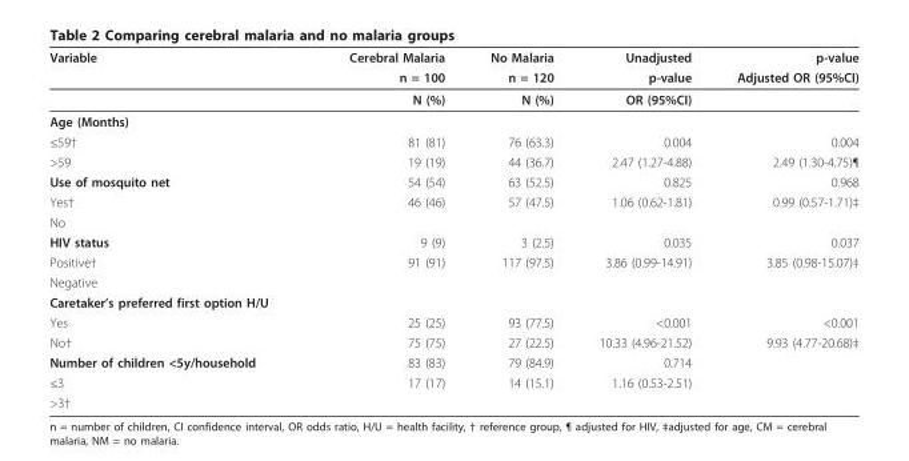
<table><thead><tr><td rowspan="2">Variable</td><td rowspan="2">Cerebral Malaria n = 100</td><td rowspan="2">No Malaria n = 120</td><td rowspan="2">Unadjusted p-value</td><td rowspan="2">p-value Adjusted OR (95%CI)</td></tr><tr></tr></thead><tbody><tr><td></td><td>N (%)</td><td>N (%)</td><td>OR (95%CI)</td><td></td></tr><tr><td colspan="5">Age (Months)</td></tr><tr><td>≤59†</td><td>81 (81)</td><td>76 (63.3)</td><td>0.004</td><td>0.004</td></tr><tr><td>&gt;59</td><td>19 (19)</td><td>44 (36.7)</td><td>2.47 (1.27-4.88)</td><td>2.49 (1.30-4.75)¶</td></tr><tr><td>Use of mosquito net</td><td>54 (54)</td><td>63 (52.5)</td><td>0.825</td><td>0.968</td></tr><tr><td>Yes†</td><td>46 (46)</td><td>57 (47.5)</td><td>1.06 (0.62-1.81)</td><td>0.99 (0.57-1.71)‡</td></tr><tr><td colspan="5">No</td></tr><tr><td>HIV status</td><td>9 (9)</td><td>3 (2.5)</td><td>0.035</td><td>0.037</td></tr><tr><td>Positive†</td><td>91 (91)</td><td>117 (97.5)</td><td>3.86 (0.99-14.91)</td><td>3.85 (0.98-15.07)‡</td></tr><tr><td colspan="5">Negative</td></tr><tr><td colspan="5">Caretaker’s preferred first option H/U</td></tr><tr><td>Yes</td><td>25 (25)</td><td>93 (77.5)</td><td>&lt;0.001</td><td>&lt;0.001</td></tr><tr><td>No†</td><td>75 (75)</td><td>27 (22.5)</td><td>10.33 (4.96-21.52)</td><td>9.93 (4.77-20.68)‡</td></tr><tr><td>Number of children &lt;5y/household</td><td>83 (83)</td><td>79 (84.9)</td><td>0.714</td><td></td></tr><tr><td>≤3</td><td>17 (17)</td><td>14 (15.1)</td><td>1.16 (0.53-2.51)</td><td></td></tr><tr><td>&gt;3†</td><td></td><td></td><td></td><td></td></tr></tbody></table>